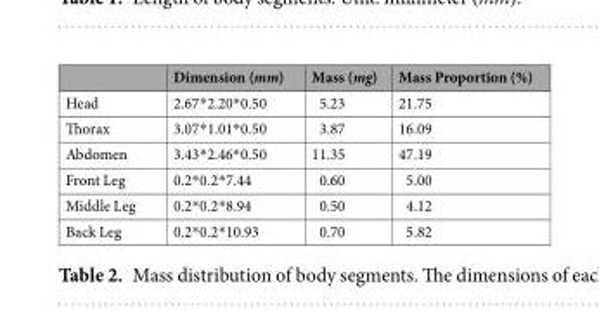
<table><thead><tr><td></td><td>Dimension (mm)</td><td>Mass (mg)</td><td>Mass Proportion (%)</td></tr></thead><tbody><tr><td>Head</td><td>2.67*2.20*0.50</td><td>5.23</td><td>21.75</td></tr><tr><td>Thorax</td><td>3.07*1.01*0.50</td><td>3.87</td><td>16.09</td></tr><tr><td>Abdomen</td><td>3.43*2.46*0.50</td><td>11.35</td><td>47.19</td></tr><tr><td>Front Leg</td><td>0.2*0.2*7.44</td><td>0.60</td><td>5.00</td></tr><tr><td>Middle Leg</td><td>0.2*0.2*8.94</td><td>0.50</td><td>4.12</td></tr><tr><td>Back Leg</td><td>0.2*0.2*10.93</td><td>0.70</td><td>5.82</td></tr></tbody></table>